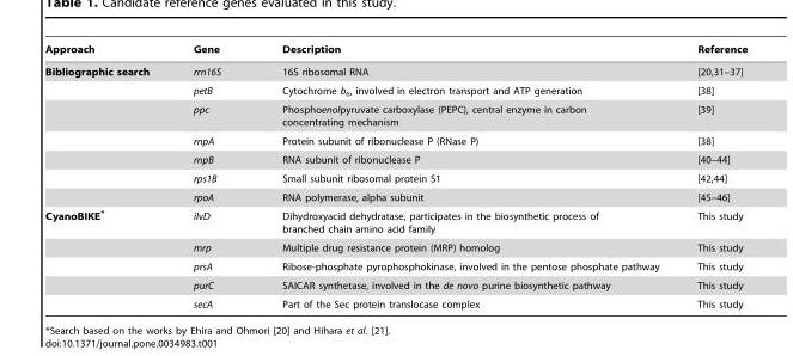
<table><thead><tr><td>Approach</td><td>Gene</td><td>Description</td><td>Reference</td></tr></thead><tbody><tr><td rowspan="7">Bibliographic search</td><td>rrn16S</td><td>16S ribosomal RNA</td><td>[20,31–37]</td></tr><tr><td>petB</td><td>Cytochrome b<sub>6</sub>, involved in electron transport and ATP generation</td><td>[38]</td></tr><tr><td>ppc</td><td>Phosphoenolpyruvate carboxylase (PEPC), central enzyme in carbon concentrating mechanism</td><td>[39]</td></tr><tr><td>rnpA</td><td>Protein subunit of ribonuclease P (RNase P)</td><td>[38]</td></tr><tr><td>rnpB</td><td>RNA subunit of ribonuclease P</td><td>[40–44]</td></tr><tr><td>rps1B</td><td>Small subunit ribosomal protein S1</td><td>[42,44]</td></tr><tr><td>rpoA</td><td>RNA polymerase, alpha subunit</td><td>[45–46]</td></tr><tr><td rowspan="5">CyanoBIKE*</td><td>ilvD</td><td>Dihydroxyacid dehydratase, participates in the biosynthetic process of branched chain amino acid family</td><td>This study</td></tr><tr><td>mrp</td><td>Multiple drug resistance protein (MRP) homolog</td><td>This study</td></tr><tr><td>prsA</td><td>Ribose-phosphate pyrophosphokinase, involved in the pentose phosphate pathway</td><td>This study</td></tr><tr><td>purC</td><td>SAICAR synthetase, involved in the de novo purine biosynthetic pathway</td><td>This study</td></tr><tr><td>secA</td><td>Part of the Sec protein translocase complex</td><td>This study</td></tr></tbody></table>